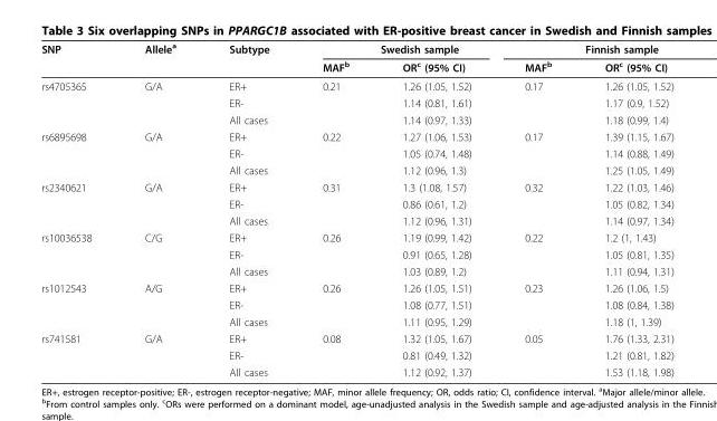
<table><thead><tr><td rowspan="2">SNP</td><td rowspan="2">Allele<sup>a</sup></td><td rowspan="2">Subtype</td><td colspan="2">Swedish sample</td><td colspan="2">Finnish sample</td></tr><tr><td>MAF<sup>b</sup></td><td>OR<sup>c</sup> (95% CI)</td><td>MAF<sup>b</sup></td><td>OR<sup>c</sup> (95% CI)</td></tr></thead><tbody><tr><td rowspan="3">rs4705365</td><td>G/A</td><td>ER+</td><td>0.21</td><td>1.26 (1.05, 1.52)</td><td>0.17</td><td>1.26 (1.05, 1.52)</td></tr><tr><td></td><td>ER-</td><td></td><td>1.14 (0.81, 1.61)</td><td></td><td>1.17 (0.9, 1.52)</td></tr><tr><td></td><td>All cases</td><td></td><td>1.14 (0.97, 1.33)</td><td></td><td>1.18 (0.99, 1.4)</td></tr><tr><td rowspan="3">rs6895698</td><td>G/A</td><td>ER+</td><td>0.22</td><td>1.27 (1.06, 1.53)</td><td>0.17</td><td>1.39 (1.15, 1.67)</td></tr><tr><td></td><td>ER-</td><td></td><td>1.05 (0.74, 1.48)</td><td></td><td>1.14 (0.88, 1.49)</td></tr><tr><td></td><td>All cases</td><td></td><td>1.12 (0.96, 1.3)</td><td></td><td>1.25 (1.05, 1.49)</td></tr><tr><td rowspan="3">rs2340621</td><td>G/A</td><td>ER+</td><td>0.31</td><td>1.3 (1.08, 1.57)</td><td>0.32</td><td>1.22 (1.03, 1.46)</td></tr><tr><td></td><td>ER-</td><td></td><td>0.86 (0.61, 1.2)</td><td></td><td>1.05 (0.82, 1.34)</td></tr><tr><td></td><td>All cases</td><td></td><td>1.12 (0.96, 1.31)</td><td></td><td>1.14 (0.97, 1.34)</td></tr><tr><td rowspan="3">rs10036538</td><td>C/G</td><td>ER+</td><td>0.26</td><td>1.19 (0.99, 1.42)</td><td>0.22</td><td>1.2 (1, 1.43)</td></tr><tr><td></td><td>ER-</td><td></td><td>0.91 (0.65, 1.28)</td><td></td><td>1.05 (0.81, 1.35)</td></tr><tr><td></td><td>All cases</td><td></td><td>1.03 (0.89, 1.2)</td><td></td><td>1.11 (0.94, 1.31)</td></tr><tr><td rowspan="3">rs1012543</td><td>A/G</td><td>ER+</td><td>0.26</td><td>1.26 (1.05, 1.51)</td><td>0.23</td><td>1.26 (1.06, 1.5)</td></tr><tr><td></td><td>ER-</td><td></td><td>1.08 (0.77, 1.51)</td><td></td><td>1.08 (0.84, 1.38)</td></tr><tr><td></td><td>All cases</td><td></td><td>1.11 (0.95, 1.29)</td><td></td><td>1.18 (1, 1.39)</td></tr><tr><td rowspan="3">rs741581</td><td>G/A</td><td>ER+</td><td>0.08</td><td>1.32 (1.05, 1.67)</td><td>0.05</td><td>1.76 (1.33, 2.31)</td></tr><tr><td></td><td>ER-</td><td></td><td>0.81 (0.49, 1.32)</td><td></td><td>1.21 (0.81, 1.82)</td></tr><tr><td></td><td>All cases</td><td></td><td>1.12 (0.92, 1.37)</td><td></td><td>1.53 (1.18, 1.98)</td></tr></tbody></table>